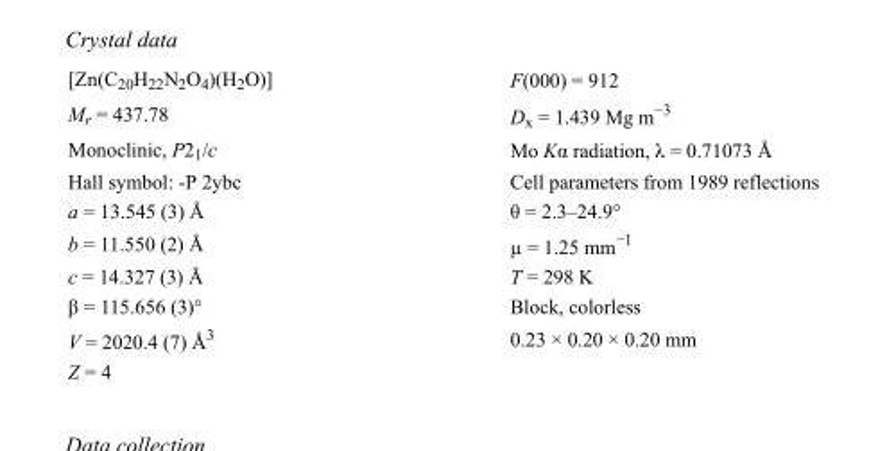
<table><tbody><tr><td>[Zn(C<sub>20</sub>H<sub>22</sub>N<sub>2</sub>O<sub>4</sub>)(H<sub>2</sub>O)]</td><td>F(000) = 912</td></tr><tr><td>M<sub>r</sub> = 437.78</td><td>D<sub>x</sub> = 1.439 Mg m<sup>−3</sup></td></tr><tr><td>Monoclinic, P2<sub>1</sub>/c</td><td>Mo Kα radiation, λ = 0.71073 Å</td></tr><tr><td>Hall symbol: -P 2ybc</td><td>Cell parameters from 1989 reflections</td></tr><tr><td>a = 13.545 (3) Å</td><td>θ = 2.3–24.9°</td></tr><tr><td>b = 11.550 (2) Å</td><td>µ = 1.25 mm<sup>−1</sup></td></tr><tr><td>c = 14.327 (3) Å</td><td>T = 298 K</td></tr><tr><td>β = 115.656 (3)°</td><td>Block, colorless</td></tr><tr><td>V = 2020.4 (7) Å<sup>3</sup></td><td>0.23 × 0.20 × 0.20 mm</td></tr><tr><td>Z = 4</td><td></td></tr></tbody></table>